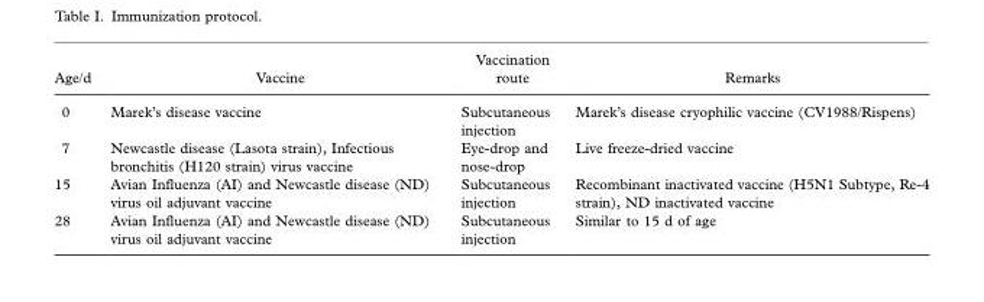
<table><thead><tr><td>Age/d</td><td>Vaccine</td><td>Vaccination route</td><td>Remarks</td></tr></thead><tbody><tr><td>0</td><td>Marek’s disease vaccine</td><td>Subcutaneous injection</td><td>Marek’s disease cryophilic vaccine (CV1988/Rispens)</td></tr><tr><td>7</td><td>Newcastle disease (Lasota strain), Infectious bronchitis (H120 strain) virus vaccine</td><td>Eye-drop and nose-drop</td><td>Live freeze-dried vaccine</td></tr><tr><td>15</td><td>Avian Influenza (AI) and Newcastle disease (ND) virus oil adjuvant vaccine</td><td>Subcutaneous injection</td><td>Recombinant inactivated vaccine (H5N1 Subtype, Re-4 strain), ND inactivated vaccine</td></tr><tr><td>28</td><td>Avian Influenza (AI) and Newcastle disease (ND) virus oil adjuvant vaccine</td><td>Subcutaneous injection</td><td>Similar to 15 d of age</td></tr></tbody></table>